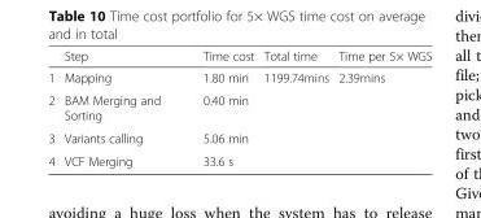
<table><thead><tr><td></td><td>Step</td><td>Time cost</td><td>Total time</td><td>Time per 5× WGS</td></tr></thead><tbody><tr><td>1</td><td>Mapping</td><td>1.80 min</td><td rowspan="4">1199.74mins</td><td rowspan="4">2.39mins</td></tr><tr><td>2</td><td>BAM Merging and Sorting</td><td>0.40 min</td></tr><tr><td>3</td><td>Variants calling</td><td>5.06 min</td></tr><tr><td>4</td><td>VCF Merging</td><td>33.6 s</td></tr></tbody></table>